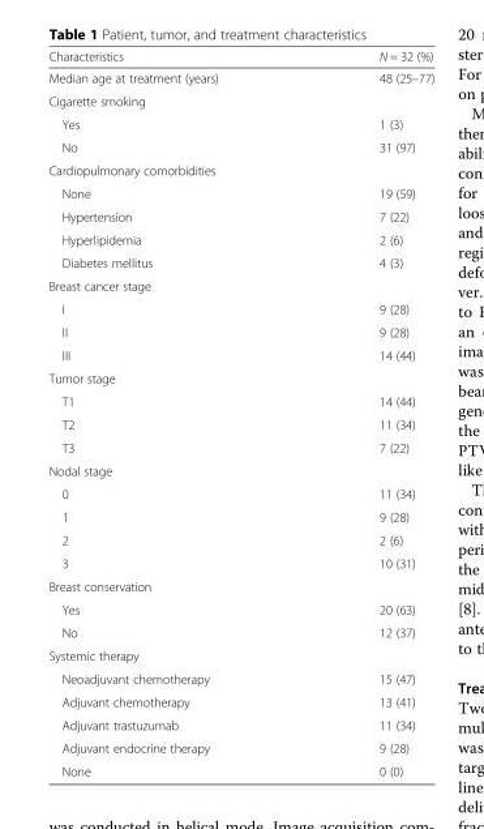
<table><thead><tr><td>Characteristics</td><td>N = 32 (%)</td></tr></thead><tbody><tr><td>Median age at treatment (years)</td><td>48 (25–77)</td></tr><tr><td colspan="2">Cigarette smoking</td></tr><tr><td>Yes</td><td>1 (3)</td></tr><tr><td>No</td><td>31 (97)</td></tr><tr><td colspan="2">Cardiopulmonary comorbidities</td></tr><tr><td>None</td><td>19 (59)</td></tr><tr><td>Hypertension</td><td>7 (22)</td></tr><tr><td>Hyperlipidemia</td><td>2 (6)</td></tr><tr><td>Diabetes mellitus</td><td>4 (3)</td></tr><tr><td colspan="2">Breast cancer stage</td></tr><tr><td>I</td><td>9 (28)</td></tr><tr><td>II</td><td>9 (28)</td></tr><tr><td>III</td><td>14 (44)</td></tr><tr><td colspan="2">Tumor stage</td></tr><tr><td>T1</td><td>14 (44)</td></tr><tr><td>T2</td><td>11 (34)</td></tr><tr><td>T3</td><td>7 (22)</td></tr><tr><td colspan="2">Nodal stage</td></tr><tr><td>0</td><td>11 (34)</td></tr><tr><td>1</td><td>9 (28)</td></tr><tr><td>2</td><td>2 (6)</td></tr><tr><td>3</td><td>10 (31)</td></tr><tr><td colspan="2">Breast conservation</td></tr><tr><td>Yes</td><td>20 (63)</td></tr><tr><td>No</td><td>12 (37)</td></tr><tr><td colspan="2">Systemic therapy</td></tr><tr><td>Neoadjuvant chemotherapy</td><td>15 (47)</td></tr><tr><td>Adjuvant chemotherapy</td><td>13 (41)</td></tr><tr><td>Adjuvant trastuzumab</td><td>11 (34)</td></tr><tr><td>Adjuvant endocrine therapy</td><td>9 (28)</td></tr><tr><td>None</td><td>0 (0)</td></tr></tbody></table>